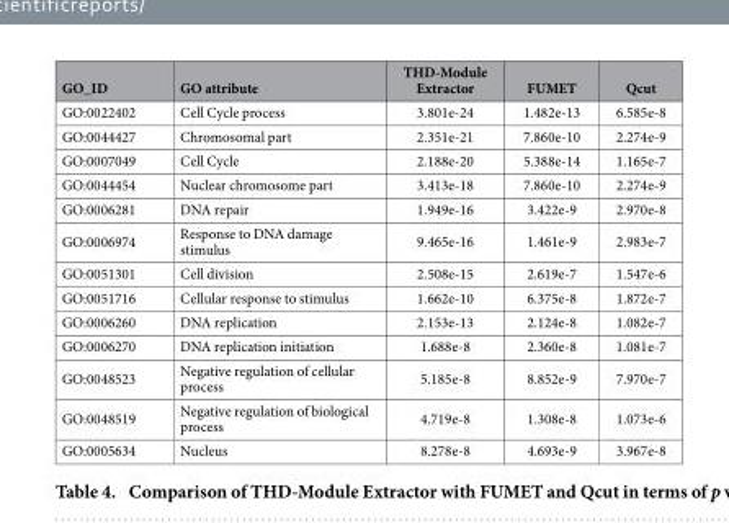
<table><thead><tr><td>GO_ID</td><td>GO attribute</td><td>THD-Module Extractor</td><td>FUMET</td><td>Qcut</td></tr></thead><tbody><tr><td>GO:0022402</td><td>Cell Cycle process</td><td>3.801e-24</td><td>1.482e-13</td><td>6.585e-8</td></tr><tr><td>GO:0044427</td><td>Chromosomal part</td><td>2.351e-21</td><td>7.860e-10</td><td>2.274e-9</td></tr><tr><td>GO:0007049</td><td>Cell Cycle</td><td>2.188e-20</td><td>5.388e-14</td><td>1.165e-7</td></tr><tr><td>GO:0044454</td><td>Nuclear chromosome part</td><td>3.413e-18</td><td>7.860e-10</td><td>2.274e-9</td></tr><tr><td>GO:0006281</td><td>DNA repair</td><td>1.949e-16</td><td>3.422e-9</td><td>2.970e-8</td></tr><tr><td>GO:0006974</td><td>Response to DNA damage stimulus</td><td>9.465e-16</td><td>1.461e-9</td><td>2.983e-7</td></tr><tr><td>GO:0051301</td><td>Cell division</td><td>2.508e-15</td><td>2.619e-7</td><td>1.547e-6</td></tr><tr><td>GO:0051716</td><td>Cellular response to stimulus</td><td>1.662e-10</td><td>6.375e-8</td><td>1.872e-7</td></tr><tr><td>GO:0006260</td><td>DNA replication</td><td>2.153e-13</td><td>2.124e-8</td><td>1.082e-7</td></tr><tr><td>GO:0006270</td><td>DNA replication initiation</td><td>1.688e-8</td><td>2.360e-8</td><td>1.081e-7</td></tr><tr><td>GO:0048523</td><td>Negative regulation of cellular process</td><td>5.185e-8</td><td>8.852e-9</td><td>7.970e-7</td></tr><tr><td>GO:0048519</td><td>Negative regulation of biological process</td><td>4.719e-8</td><td>1.308e-8</td><td>1.073e-6</td></tr><tr><td>GO:0005634</td><td>Nucleus</td><td>8.278e-8</td><td>4.693e-9</td><td>3.967e-8</td></tr></tbody></table>